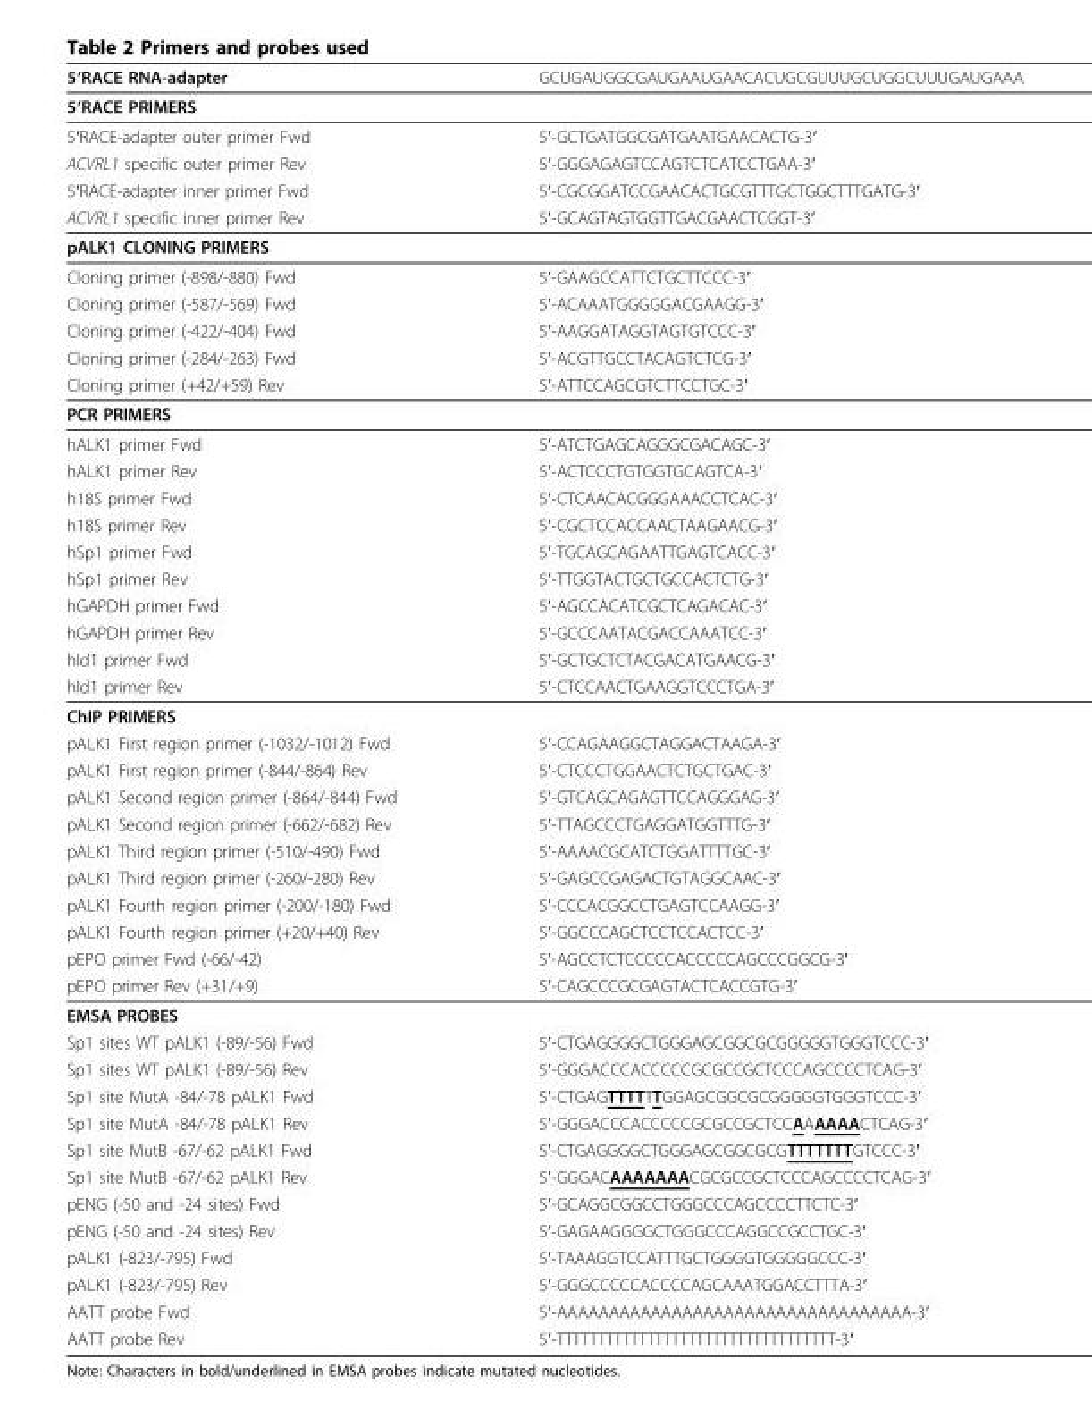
<table><thead><tr><td>5′RACE RNA-adapter</td><td>GCUGAUGGCGAUGAAUGAACACUGCGUUUGCUGGCUUUGAUGAAA</td></tr></thead><tbody><tr><td colspan="2">5′RACE PRIMERS</td></tr><tr><td>5′RACE-adapter outer primer Fwd</td><td>5′-GCTGATGGCGATGAATGAACACTG-3′</td></tr><tr><td>ACVRL1 specific outer primer Rev</td><td>5′-GGGAGAGTCCAGTCTCATCCTGAA-3′</td></tr><tr><td>5′RACE-adapter inner primer Fwd</td><td>5′-CGCGGATCCGAACACTGCGTTTGCTGGCTTTGATG-3′</td></tr><tr><td>ACVRL1 specific inner primer Rev</td><td>5′-GCAGTAGTGGTTGACGAACTCGGT-3′</td></tr><tr><td colspan="2">pALK1 CLONING PRIMERS</td></tr><tr><td>Cloning primer (-898/-880) Fwd</td><td>5′-GAAGCCATTCTGCTTCCC-3′</td></tr><tr><td>Cloning primer (-587/-569) Fwd</td><td>5′-ACAAATGGGGGACGAAGG-3′</td></tr><tr><td>Cloning primer (-422/-404) Fwd</td><td>5′-AAGGATAGGTAGTGTCCC-3′</td></tr><tr><td>Cloning primer (-284/-263) Fwd</td><td>5′-ACGTTGCCTACAGTCTCG-3′</td></tr><tr><td>Cloning primer (+42/+59) Rev</td><td>5′-ATTCCAGCGTCTTCCTGC-3′</td></tr><tr><td colspan="2">PCR PRIMERS</td></tr><tr><td>hALK1 primer Fwd</td><td>5′-ATCTGAGCAGGGCGACAGC-3′</td></tr><tr><td>hALK1 primer Rev</td><td>5′-ACTCCCTGTGGTGCAGTCA-3′</td></tr><tr><td>h18S primer Fwd</td><td>5′-CTCAACACGGGAAACCTCAC-3′</td></tr><tr><td>h18S primer Rev</td><td>5′-CGCTCCACCAACTAAGAACG-3′</td></tr><tr><td>hSp1 primer Fwd</td><td>5′-TGCAGCAGAATTGAGTCACC-3′</td></tr><tr><td>hSp1 primer Rev</td><td>5′-TTGGTACTGCTGCCACTCTG-3′</td></tr><tr><td>hGAPDH primer Fwd</td><td>5′-AGCCACATCGCTCAGACAC-3′</td></tr><tr><td>hGAPDH primer Rev</td><td>5′-GCCCAATACGACCAAATCC-3′</td></tr><tr><td>hId1 primer Fwd</td><td>5′-GCTGCTCTACGACATGAACG-3′</td></tr><tr><td>hId1 primer Rev</td><td>5′-CTCCAACTGAAGGTCCCTGA-3′</td></tr><tr><td colspan="2">ChIP PRIMERS</td></tr><tr><td>pALK1 First region primer (-1032/-1012) Fwd</td><td>5′-CCAGAAGGCTAGGACTAAGA-3′</td></tr><tr><td>pALK1 First region primer (-844/-864) Rev</td><td>5′-CTCCCTGGAACTCTGCTGAC-3′</td></tr><tr><td>pALK1 Second region primer (-864/-844) Fwd</td><td>5′-GTCAGCAGAGTTCCAGGGAG-3′</td></tr><tr><td>pALK1 Second region primer (-662/-682) Rev</td><td>5′-TTAGCCCTGAGGATGGTTTG-3′</td></tr><tr><td>pALK1 Third region primer (-510/-490) Fwd</td><td>5′-AAAACGCATCTGGATTTTGC-3′</td></tr><tr><td>pALK1 Third region primer (-260/-280) Rev</td><td>5′-GAGCCGAGACTGTAGGCAAC-3′</td></tr><tr><td>pALK1 Fourth region primer (-200/-180) Fwd</td><td>5′-CCCACGGCCTGAGTCCAAGG-3′</td></tr><tr><td>pALK1 Fourth region primer (+20/+40) Rev</td><td>5′-GGCCCAGCTCCTCCACTCC-3′</td></tr><tr><td>pEPO primer Fwd (-66/-42)</td><td>5′-AGCCTCTCCCCCACCCCCAGCCCGGCG-3′</td></tr><tr><td>pEPO primer Rev (+31/+9)</td><td>5′-CAGCCCGCGAGTACTCACCGTG-3′</td></tr><tr><td colspan="2">EMSA PROBES</td></tr><tr><td>Sp1 sites WT pALK1 (-89/-56) Fwd</td><td>5′-CTGAGGGGCTGGGAGCGGCGCGGGGGTGGGTCCC-3′</td></tr><tr><td>Sp1 sites WT pALK1 (-89/-56) Rev</td><td>5′-GGGACCCACCCCCGCGCCGCTCCCAGCCCCTCAG-3′</td></tr><tr><td>Sp1 site MutA -84/-78 pALK1 Fwd</td><td>5′-CTGAGTTTTTTGGAGCGGCGCGGGGGTGGGTCCC-3′</td></tr><tr><td>Sp1 site MutA -84/-78 pALK1 Rev</td><td>5′-GGGACCCACCCCCGCGCCGCTCCAAAAAACTCAG-3′</td></tr><tr><td>Sp1 site MutB -67/-62 pALK1 Fwd</td><td>5′-CTGAGGGGCTGGGAGCGGCGCGTTTTTTTGTCCC-3′</td></tr><tr><td>Sp1 site MutB -67/-62 pALK1 Rev</td><td>5′-GGGACAAAAAAACGCGCCGCTCCCAGCCCCTCAG-3′</td></tr><tr><td>pENG (-50 and -24 sites) Fwd</td><td>5′-GCAGGCGGCCTGGGCCCAGCCCCTTCTC-3′</td></tr><tr><td>pENG (-50 and -24 sites) Rev</td><td>5′-GAGAAGGGGCTGGGCCCAGGCCGCCTGC-3′</td></tr><tr><td>pALK1 (-823/-795) Fwd</td><td>5′-TAAAGGTCCATTTGCTGGGGTGGGGGCCC-3′</td></tr><tr><td>pALK1 (-823/-795) Rev</td><td>5′-GGGCCCCCACCCCAGCAAATGGACCTTTA-3′</td></tr><tr><td>AATT probe Fwd</td><td>5′-AAAAAAAAAAAAAAAAAAAAAAAAAAAAAAAAAA-3′</td></tr><tr><td>AATT probe Rev</td><td>5′-TTTTTTTTTTTTTTTTTTTTTTTTTTTTTTTTTT-3′</td></tr></tbody></table>